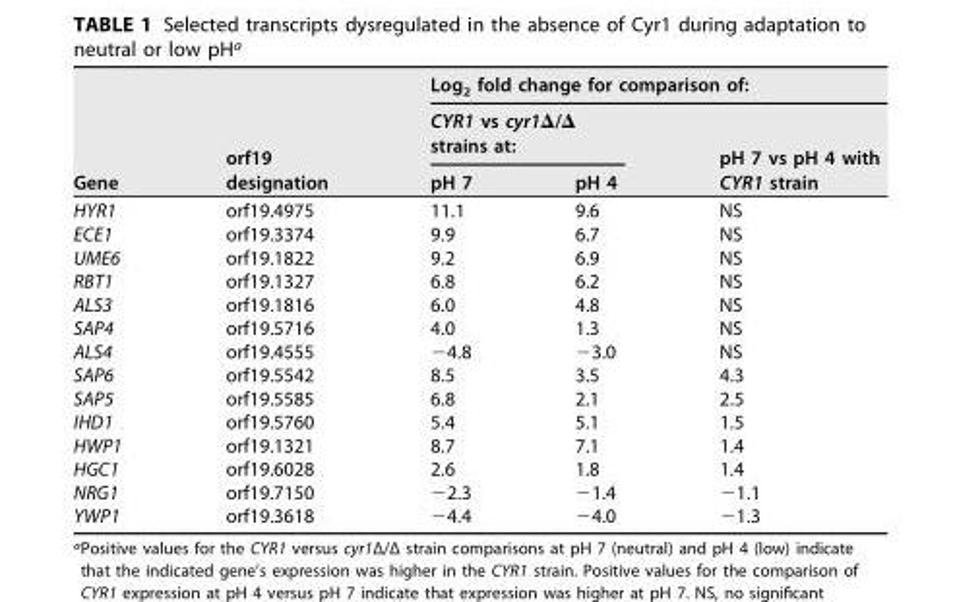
<table><thead><tr><td rowspan="3">Gene</td><td rowspan="3">orf19 designation</td><td colspan="3">Log<sub>2</sub> fold change for comparison of:</td></tr><tr><td colspan="2">CYR1 vs cyr1Δ/Δ strains at:</td><td rowspan="2">pH 7 vs pH 4 with CYR1 strain</td></tr><tr><td>pH 7</td><td>pH 4</td></tr></thead><tbody><tr><td>HYR1</td><td>orf19.4975</td><td>11.1</td><td>9.6</td><td>NS</td></tr><tr><td>ECE1</td><td>orf19.3374</td><td>9.9</td><td>6.7</td><td>NS</td></tr><tr><td>UME6</td><td>orf19.1822</td><td>9.2</td><td>6.9</td><td>NS</td></tr><tr><td>RBT1</td><td>orf19.1327</td><td>6.8</td><td>6.2</td><td>NS</td></tr><tr><td>ALS3</td><td>orf19.1816</td><td>6.0</td><td>4.8</td><td>NS</td></tr><tr><td>SAP4</td><td>orf19.5716</td><td>4.0</td><td>1.3</td><td>NS</td></tr><tr><td>ALS4</td><td>orf19.4555</td><td>−4.8</td><td>−3.0</td><td>NS</td></tr><tr><td>SAP6</td><td>orf19.5542</td><td>8.5</td><td>3.5</td><td>4.3</td></tr><tr><td>SAP5</td><td>orf19.5585</td><td>6.8</td><td>2.1</td><td>2.5</td></tr><tr><td>IHD1</td><td>orf19.5760</td><td>5.4</td><td>5.1</td><td>1.5</td></tr><tr><td>HWP1</td><td>orf19.1321</td><td>8.7</td><td>7.1</td><td>1.4</td></tr><tr><td>HGC1</td><td>orf19.6028</td><td>2.6</td><td>1.8</td><td>1.4</td></tr><tr><td>NRG1</td><td>orf19.7150</td><td>−2.3</td><td>−1.4</td><td>−1.1</td></tr><tr><td>YWP1</td><td>orf19.3618</td><td>−4.4</td><td>−4.0</td><td>−1.3</td></tr></tbody></table>